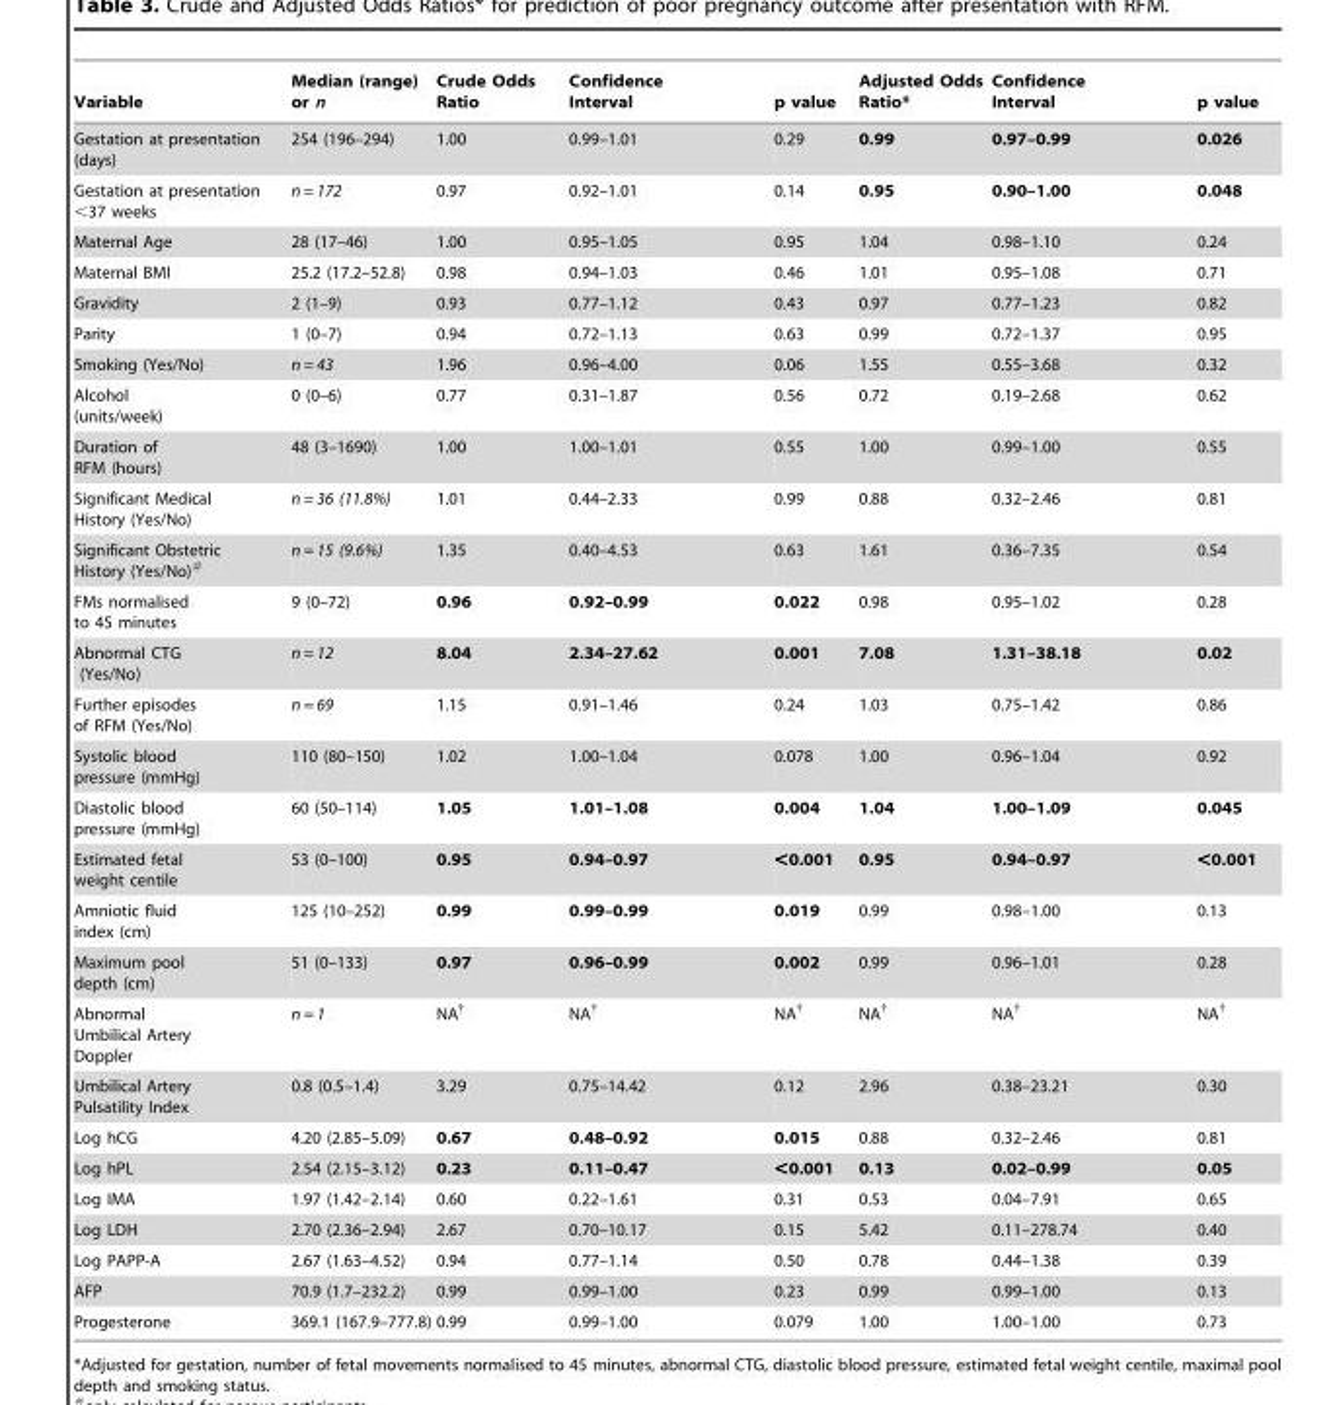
<table><thead><tr><td>Variable</td><td>Median (range) or n</td><td>Crude Odds Ratio</td><td>Confidence Interval</td><td>p value</td><td>Adjusted Odds Ratio*</td><td>Confidence Interval</td><td>p value</td></tr></thead><tbody><tr><td>Gestation at presentation (days)</td><td>254 (196–294)</td><td>1.00</td><td>0.99–1.01</td><td>0.29</td><td>0.99</td><td>0.97–0.99</td><td>0.026</td></tr><tr><td>Gestation at presentation &lt;37 weeks</td><td>n = 172</td><td>0.97</td><td>0.92–1.01</td><td>0.14</td><td>0.95</td><td>0.90–1.00</td><td>0.048</td></tr><tr><td>Maternal Age</td><td>28 (17–46)</td><td>1.00</td><td>0.95–1.05</td><td>0.95</td><td>1.04</td><td>0.98–1.10</td><td>0.24</td></tr><tr><td>Maternal BMI</td><td>25.2 (17.2–52.8)</td><td>0.98</td><td>0.94–1.03</td><td>0.46</td><td>1.01</td><td>0.95–1.08</td><td>0.71</td></tr><tr><td>Gravidity</td><td>2 (1–9)</td><td>0.93</td><td>0.77–1.12</td><td>0.43</td><td>0.97</td><td>0.77–1.23</td><td>0.82</td></tr><tr><td>Parity</td><td>1 (0–7)</td><td>0.94</td><td>0.72–1.13</td><td>0.63</td><td>0.99</td><td>0.72–1.37</td><td>0.95</td></tr><tr><td>Smoking (Yes/No)</td><td>n = 43</td><td>1.96</td><td>0.96–4.00</td><td>0.06</td><td>1.55</td><td>0.55–3.68</td><td>0.32</td></tr><tr><td>Alcohol (units/week)</td><td>0 (0–6)</td><td>0.77</td><td>0.31–1.87</td><td>0.56</td><td>0.72</td><td>0.19–2.68</td><td>0.62</td></tr><tr><td>Duration of RFM (hours)</td><td>48 (3–1690)</td><td>1.00</td><td>1.00–1.01</td><td>0.55</td><td>1.00</td><td>0.99–1.00</td><td>0.55</td></tr><tr><td>Significant Medical History (Yes/No)</td><td>n = 36 (11.8%)</td><td>1.01</td><td>0.44–2.33</td><td>0.99</td><td>0.88</td><td>0.32–2.46</td><td>0.81</td></tr><tr><td>Significant Obstetric History (Yes/No)#</td><td>n = 15 (9.6%)</td><td>1.35</td><td>0.40–4.53</td><td>0.63</td><td>1.61</td><td>0.36–7.35</td><td>0.54</td></tr><tr><td>FMs normalised to 45 minutes</td><td>9 (0–72)</td><td>0.96</td><td>0.92–0.99</td><td>0.022</td><td>0.98</td><td>0.95–1.02</td><td>0.28</td></tr><tr><td>Abnormal CTG (Yes/No)</td><td>n = 12</td><td>8.04</td><td>2.34–27.62</td><td>0.001</td><td>7.08</td><td>1.31–38.18</td><td>0.02</td></tr><tr><td>Further episodes of RFM (Yes/No)</td><td>n = 69</td><td>1.15</td><td>0.91–1.46</td><td>0.24</td><td>1.03</td><td>0.75–1.42</td><td>0.86</td></tr><tr><td>Systolic blood pressure (mmHg)</td><td>110 (80–150)</td><td>1.02</td><td>1.00–1.04</td><td>0.078</td><td>1.00</td><td>0.96–1.04</td><td>0.92</td></tr><tr><td>Diastolic blood pressure (mmHg)</td><td>60 (50–114)</td><td>1.05</td><td>1.01–1.08</td><td>0.004</td><td>1.04</td><td>1.00–1.09</td><td>0.045</td></tr><tr><td>Estimated fetal weight centile</td><td>53 (0–100)</td><td>0.95</td><td>0.94–0.97</td><td>&lt;0.001</td><td>0.95</td><td>0.94–0.97</td><td>&lt;0.001</td></tr><tr><td>Amniotic fluid index (cm)</td><td>125 (10–252)</td><td>0.99</td><td>0.99–0.99</td><td>0.019</td><td>0.99</td><td>0.98–1.00</td><td>0.13</td></tr><tr><td>Maximum pool depth (cm)</td><td>51 (0–133)</td><td>0.97</td><td>0.96–0.99</td><td>0.002</td><td>0.99</td><td>0.96–1.01</td><td>0.28</td></tr><tr><td>Abnormal Umbilical Artery Doppler</td><td>n = 1</td><td>NA†</td><td>NA†</td><td>NA†</td><td>NA†</td><td>NA†</td><td>NA†</td></tr><tr><td>Umbilical Artery Pulsatility Index</td><td>0.8 (0.5–1.4)</td><td>3.29</td><td>0.75–14.42</td><td>0.12</td><td>2.96</td><td>0.38–23.21</td><td>0.30</td></tr><tr><td>Log hCG</td><td>4.20 (2.85–5.09)</td><td>0.67</td><td>0.48–0.92</td><td>0.015</td><td>0.88</td><td>0.32–2.46</td><td>0.81</td></tr><tr><td>Log hPL</td><td>2.54 (2.15–3.12)</td><td>0.23</td><td>0.11–0.47</td><td>&lt;0.001</td><td>0.13</td><td>0.02–0.99</td><td>0.05</td></tr><tr><td>Log IMA</td><td>1.97 (1.42–2.14)</td><td>0.60</td><td>0.22–1.61</td><td>0.31</td><td>0.53</td><td>0.04–7.91</td><td>0.65</td></tr><tr><td>Log LDH</td><td>2.70 (2.36–2.94)</td><td>2.67</td><td>0.70–10.17</td><td>0.15</td><td>5.42</td><td>0.11–278.74</td><td>0.40</td></tr><tr><td>Log PAPP-A</td><td>2.67 (1.63–4.52)</td><td>0.94</td><td>0.77–1.14</td><td>0.50</td><td>0.78</td><td>0.44–1.38</td><td>0.39</td></tr><tr><td>AFP</td><td>70.9 (1.7–232.2)</td><td>0.99</td><td>0.99–1.00</td><td>0.23</td><td>0.99</td><td>0.99–1.00</td><td>0.13</td></tr><tr><td>Progesterone</td><td>369.1 (167.9–777.8)</td><td>0.99</td><td>0.99–1.00</td><td>0.079</td><td>1.00</td><td>1.00–1.00</td><td>0.73</td></tr></tbody></table>